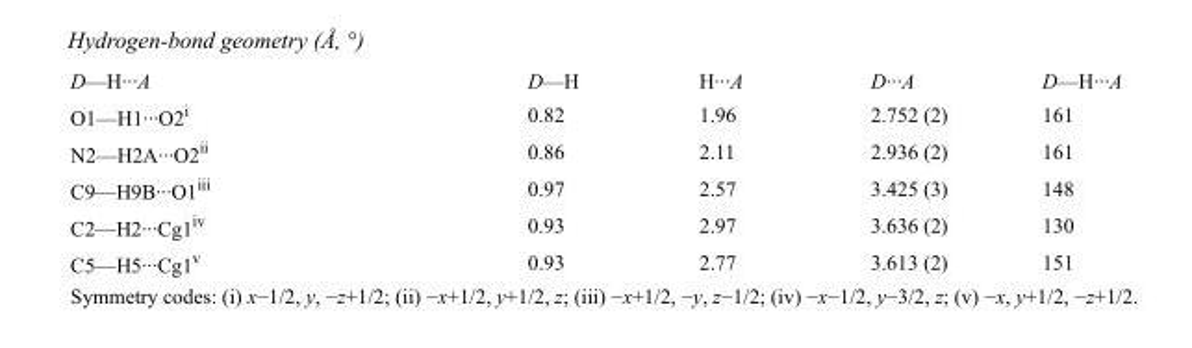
<table><tbody><tr><td>D—H···A</td><td>D—H</td><td>H···A</td><td>D···A</td><td>D—H···A</td></tr><tr><td>O1—H1···O2<sup>i</sup></td><td>0.82</td><td>1.96</td><td>2.752 (2)</td><td>161</td></tr><tr><td>N2—H2A···O2<sup>ii</sup></td><td>0.86</td><td>2.11</td><td>2.936 (2)</td><td>161</td></tr><tr><td>C9—H9B···O1<sup>iii</sup></td><td>0.97</td><td>2.57</td><td>3.425 (3)</td><td>148</td></tr><tr><td>C2—H2···Cg1<sup>iv</sup></td><td>0.93</td><td>2.97</td><td>3.636 (2)</td><td>130</td></tr><tr><td>C5—H5···Cg1<sup>v</sup></td><td>0.93</td><td>2.77</td><td>3.613 (2)</td><td>151</td></tr></tbody></table>